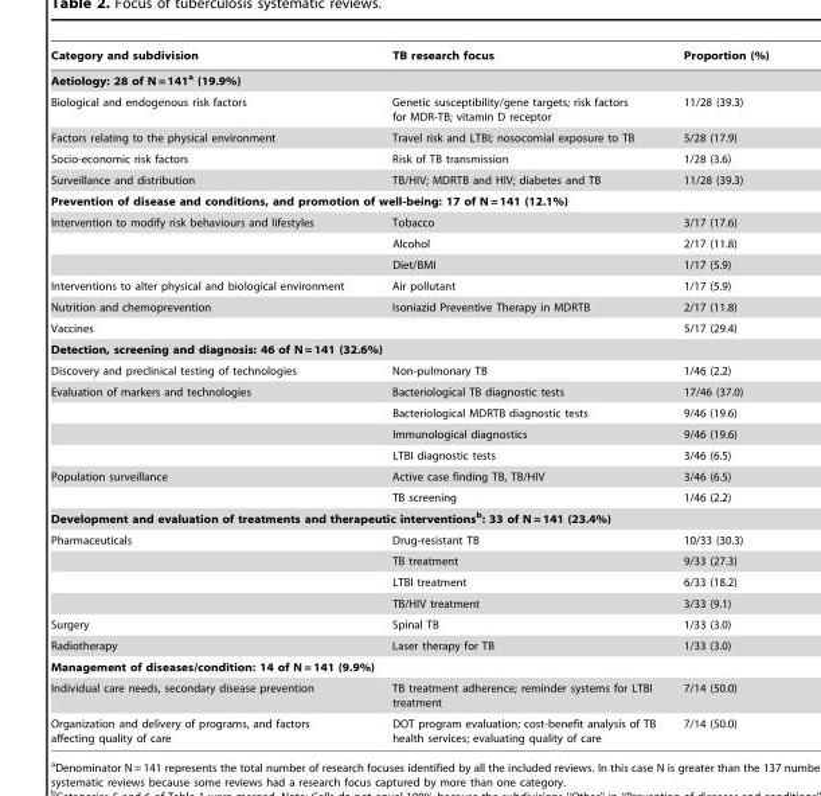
<table><thead><tr><td>Category and subdivision</td><td>TB research focus</td><td>Proportion (%)</td></tr></thead><tbody><tr><td colspan="3">Aetiology: 28 of N = 141a (19.9%)</td></tr><tr><td>Biological and endogenous risk factors</td><td>Genetic susceptibility/gene targets; risk factors for MDR-TB; vitamin D receptor</td><td>11/28 (39.3)</td></tr><tr><td>Factors relating to the physical environment</td><td>Travel risk and LTBI; nosocomial exposure to TB</td><td>5/28 (17.9)</td></tr><tr><td>Socio-economic risk factors</td><td>Risk of TB transmission</td><td>1/28 (3.6)</td></tr><tr><td>Surveillance and distribution</td><td>TB/HIV; MDRTB and HIV; diabetes and TB</td><td>11/28 (39.3)</td></tr><tr><td colspan="3">Prevention of disease and conditions, and promotion of well-being: 17 of N = 141 (12.1%)</td></tr><tr><td rowspan="3">Intervention to modify risk behaviours and lifestyles</td><td>Tobacco</td><td>3/17 (17.6)</td></tr><tr><td>Alcohol</td><td>2/17 (11.8)</td></tr><tr><td>Diet/BMI</td><td>1/17 (5.9)</td></tr><tr><td>Interventions to alter physical and biological environment</td><td>Air pollutant</td><td>1/17 (5.9)</td></tr><tr><td>Nutrition and chemoprevention</td><td>Isoniazid Preventive Therapy in MDRTB</td><td>2/17 (11.8)</td></tr><tr><td>Vaccines</td><td></td><td>5/17 (29.4)</td></tr><tr><td colspan="3">Detection, screening and diagnosis: 46 of N = 141 (32.6%)</td></tr><tr><td>Discovery and preclinical testing of technologies</td><td>Non-pulmonary TB</td><td>1/46 (2.2)</td></tr><tr><td rowspan="4">Evaluation of markers and technologies</td><td>Bacteriological TB diagnostic tests</td><td>17/46 (37.0)</td></tr><tr><td>Bacteriological MDRTB diagnostic tests</td><td>9/46 (19.6)</td></tr><tr><td>Immunological diagnostics</td><td>9/46 (19.6)</td></tr><tr><td>LTBI diagnostic tests</td><td>3/46 (6.5)</td></tr><tr><td rowspan="2">Population surveillance</td><td>Active case finding TB, TB/HIV</td><td>3/46 (6.5)</td></tr><tr><td>TB screening</td><td>1/46 (2.2)</td></tr><tr><td colspan="3">Development and evaluation of treatments and therapeutic interventionsb: 33 of N = 141 (23.4%)</td></tr><tr><td rowspan="4">Pharmaceuticals</td><td>Drug-resistant TB</td><td>10/33 (30.3)</td></tr><tr><td>TB treatment</td><td>9/33 (27.3)</td></tr><tr><td>LTBI treatment</td><td>6/33 (18.2)</td></tr><tr><td>TB/HIV treatment</td><td>3/33 (9.1)</td></tr><tr><td>Surgery</td><td>Spinal TB</td><td>1/33 (3.0)</td></tr><tr><td>Radiotherapy</td><td>Laser therapy for TB</td><td>1/33 (3.0)</td></tr><tr><td colspan="3">Management of diseases/condition: 14 of N = 141 (9.9%)</td></tr><tr><td>Individual care needs, secondary disease prevention</td><td>TB treatment adherence; reminder systems for LTBI treatment</td><td>7/14 (50.0)</td></tr><tr><td>Organization and delivery of programs, and factors affecting quality of care</td><td>DOT program evaluation; cost-benefit analysis of TB health services; evaluating quality of care</td><td>7/14 (50.0)</td></tr></tbody></table>